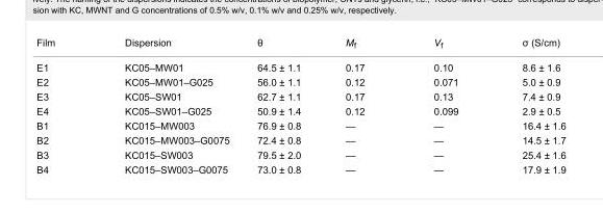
<table><tbody><tr><td>Film</td><td>Dispersion</td><td>θ</td><td>M<sub>f</sub></td><td>V<sub>f</sub></td><td>σ (S/cm)</td></tr><tr><td>E1</td><td>KC05–MW01</td><td>64.5 ± 1.1</td><td>0.17</td><td>0.10</td><td>8.6 ± 1.6</td></tr><tr><td>E2</td><td>KC05–MW01–G025</td><td>56.0 ± 1.1</td><td>0.12</td><td>0.071</td><td>5.0 ± 0.9</td></tr><tr><td>E3</td><td>KC05–SW01</td><td>62.7 ± 1.1</td><td>0.17</td><td>0.13</td><td>7.4 ± 0.9</td></tr><tr><td>E4</td><td>KC05–SW01–G025</td><td>50.9 ± 1.4</td><td>0.12</td><td>0.099</td><td>2.9 ± 0.5</td></tr><tr><td>B1</td><td>KC015–MW003</td><td>76.9 ± 0.8</td><td>—</td><td>—</td><td>16.4 ± 1.6</td></tr><tr><td>B2</td><td>KC015–MW003–G0075</td><td>72.4 ± 0.8</td><td>—</td><td>—</td><td>14.5 ± 1.7</td></tr><tr><td>B3</td><td>KC015–SW003</td><td>79.5 ± 2.0</td><td>—</td><td>—</td><td>25.4 ± 1.6</td></tr><tr><td>B4</td><td>KC015–SW003–G0075</td><td>73.0 ± 0.8</td><td>—</td><td>—</td><td>17.9 ± 1.9</td></tr></tbody></table>